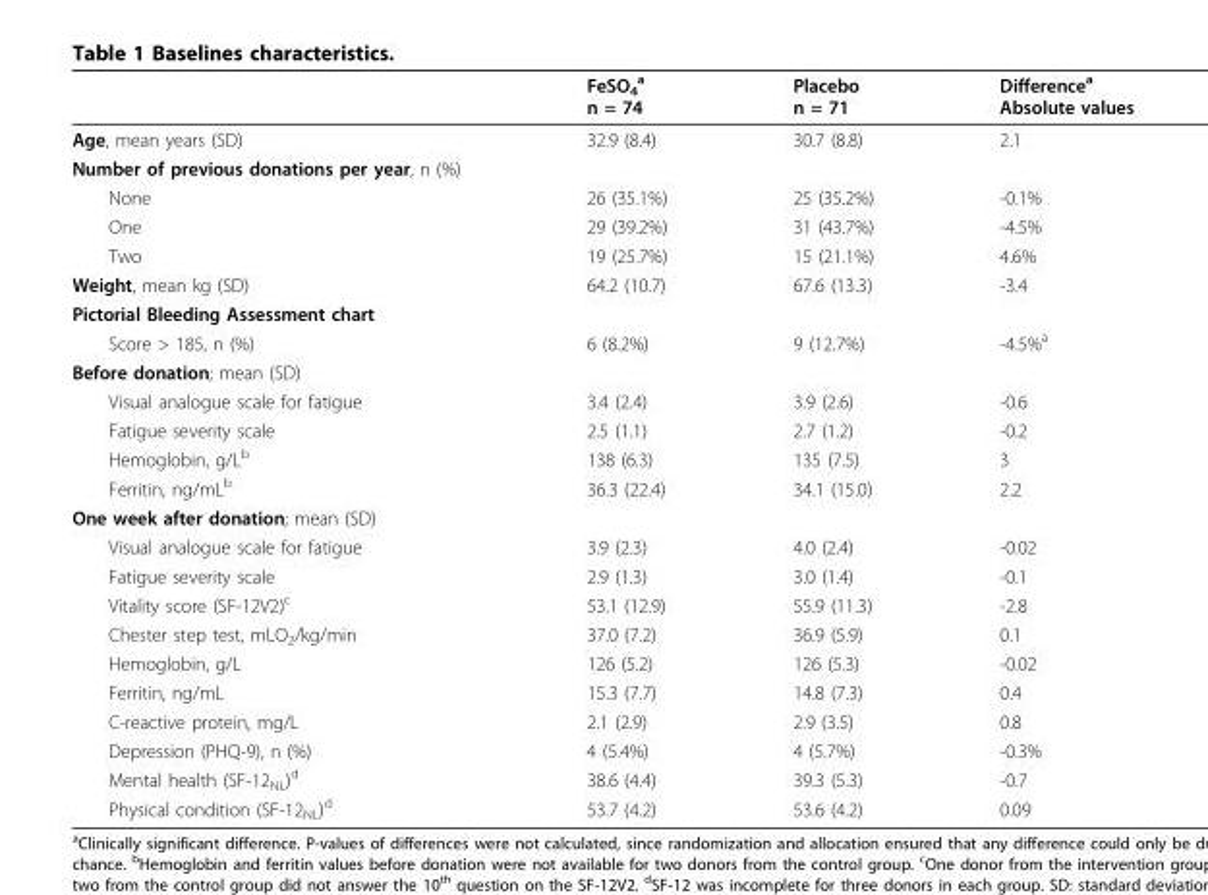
<table><thead><tr><td></td><td>FeSO<sub>4</sub> <sup>a</sup> n = 74</td><td>Placebo n = 71</td><td>Difference<sup>a</sup> Absolute values</td></tr></thead><tbody><tr><td>Age, mean years (SD)</td><td>32.9 (8.4)</td><td>30.7 (8.8)</td><td>2.1</td></tr><tr><td colspan="4">Number of previous donations per year, n (%)</td></tr><tr><td>None</td><td>26 (35.1%)</td><td>25 (35.2%)</td><td>-0.1%</td></tr><tr><td>One</td><td>29 (39.2%)</td><td>31 (43.7%)</td><td>-4.5%</td></tr><tr><td>Two</td><td>19 (25.7%)</td><td>15 (21.1%)</td><td>4.6%</td></tr><tr><td>Weight, mean kg (SD)</td><td>64.2 (10.7)</td><td>67.6 (13.3)</td><td>-3.4</td></tr><tr><td colspan="4">Pictorial Bleeding Assessment chart</td></tr><tr><td>Score &gt; 185, n (%)</td><td>6 (8.2%)</td><td>9 (12.7%)</td><td>-4.5%<sup>a</sup></td></tr><tr><td colspan="4">Before donation; mean (SD)</td></tr><tr><td>Visual analogue scale for fatigue</td><td>3.4 (2.4)</td><td>3.9 (2.6)</td><td>-0.6</td></tr><tr><td>Fatigue severity scale</td><td>2.5 (1.1)</td><td>2.7 (1.2)</td><td>-0.2</td></tr><tr><td>Hemoglobin, g/L<sup>b</sup></td><td>138 (6.3)</td><td>135 (7.5)</td><td>3</td></tr><tr><td>Ferritin, ng/mL<sup>b</sup></td><td>36.3 (22.4)</td><td>34.1 (15.0)</td><td>2.2</td></tr><tr><td colspan="4">One week after donation; mean (SD)</td></tr><tr><td>Visual analogue scale for fatigue</td><td>3.9 (2.3)</td><td>4.0 (2.4)</td><td>-0.02</td></tr><tr><td>Fatigue severity scale</td><td>2.9 (1.3)</td><td>3.0 (1.4)</td><td>-0.1</td></tr><tr><td>Vitality score (SF-12V2)<sup>c</sup></td><td>53.1 (12.9)</td><td>55.9 (11.3)</td><td>-2.8</td></tr><tr><td>Chester step test, mLO<sub>2</sub>/kg/min</td><td>37.0 (7.2)</td><td>36.9 (5.9)</td><td>0.1</td></tr><tr><td>Hemoglobin, g/L</td><td>126 (5.2)</td><td>126 (5.3)</td><td>-0.02</td></tr><tr><td>Ferritin, ng/mL</td><td>15.3 (7.7)</td><td>14.8 (7.3)</td><td>0.4</td></tr><tr><td>C-reactive protein, mg/L</td><td>2.1 (2.9)</td><td>2.9 (3.5)</td><td>0.8</td></tr><tr><td>Depression (PHQ-9), n (%)</td><td>4 (5.4%)</td><td>4 (5.7%)</td><td>-0.3%</td></tr><tr><td>Mental health (SF-12<sub>NL</sub>)<sup>d</sup></td><td>38.6 (4.4)</td><td>39.3 (5.3)</td><td>-0.7</td></tr><tr><td>Physical condition (SF-12<sub>NL</sub>)<sup>d</sup></td><td>53.7 (4.2)</td><td>53.6 (4.2)</td><td>0.09</td></tr></tbody></table>